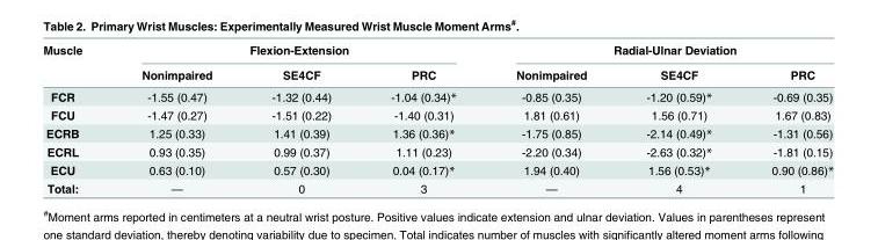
<table><thead><tr><td rowspan="2">Muscle</td><td colspan="3">Flexion-Extension</td><td colspan="3">Radial-Ulnar Deviation</td></tr><tr><td>Nonimpaired</td><td>SE4CF</td><td>PRC</td><td>Nonimpaired</td><td>SE4CF</td><td>PRC</td></tr></thead><tbody><tr><td>FCR</td><td>-1.55 (0.47)</td><td>-1.32 (0.44)</td><td>-1.04 (0.34)*</td><td>-0.85 (0.35)</td><td>-1.20 (0.59)*</td><td>-0.69 (0.35)</td></tr><tr><td>FCU</td><td>-1.47 (0.27)</td><td>-1.51 (0.22)</td><td>-1.40 (0.31)</td><td>1.81 (0.61)</td><td>1.56 (0.71)</td><td>1.67 (0.83)</td></tr><tr><td>ECRB</td><td>1.25 (0.33)</td><td>1.41 (0.39)</td><td>1.36 (0.36)*</td><td>-1.75 (0.85)</td><td>-2.14 (0.49)*</td><td>-1.31 (0.56)</td></tr><tr><td>ECRL</td><td>0.93 (0.35)</td><td>0.99 (0.37)</td><td>1.11 (0.23)</td><td>-2.20 (0.34)</td><td>-2.63 (0.32)*</td><td>-1.81 (0.15)</td></tr><tr><td>ECU</td><td>0.63 (0.10)</td><td>0.57 (0.30)</td><td>0.04 (0.17)*</td><td>1.94 (0.40)</td><td>1.56 (0.53)*</td><td>0.90 (0.86)*</td></tr><tr><td>Total:</td><td>—</td><td>0</td><td>3</td><td>—</td><td>4</td><td>1</td></tr></tbody></table>